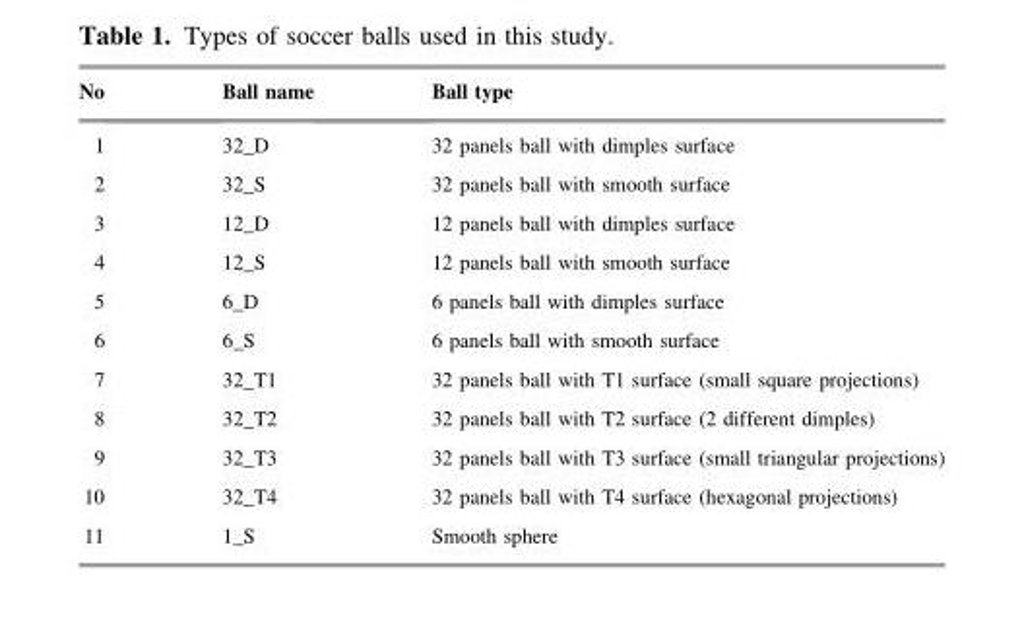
<table><thead><tr><td>No</td><td>Ball name</td><td>Ball type</td></tr></thead><tbody><tr><td>1</td><td>32_D</td><td>32 panels ball with dimples surface</td></tr><tr><td>2</td><td>32_S</td><td>32 panels ball with smooth surface</td></tr><tr><td>3</td><td>12_D</td><td>12 panels ball with dimples surface</td></tr><tr><td>4</td><td>12_S</td><td>12 panels ball with smooth surface</td></tr><tr><td>5</td><td>6_D</td><td>6 panels ball with dimples surface</td></tr><tr><td>6</td><td>6_S</td><td>6 panels ball with smooth surface</td></tr><tr><td>7</td><td>32_T1</td><td>32 panels ball with T1 surface (small square projections)</td></tr><tr><td>8</td><td>32_T2</td><td>32 panels ball with T2 surface (2 different dimples)</td></tr><tr><td>9</td><td>32_T3</td><td>32 panels ball with T3 surface (small triangular projections)</td></tr><tr><td>10</td><td>32_T4</td><td>32 panels ball with T4 surface (hexagonal projections)</td></tr><tr><td>11</td><td>1_S</td><td>Smooth sphere</td></tr></tbody></table>